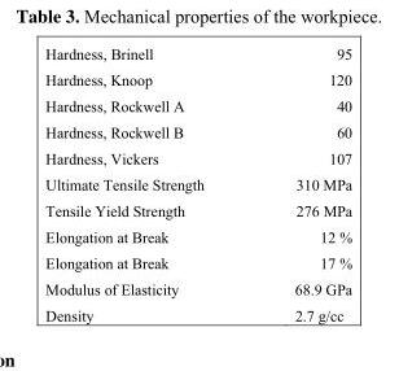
<table><tbody><tr><td>Hardness, Brinell</td><td>95</td></tr><tr><td>Hardness, Knoop</td><td>120</td></tr><tr><td>Hardness, Rockwell A</td><td>40</td></tr><tr><td>Hardness, Rockwell B</td><td>60</td></tr><tr><td>Hardness, Vickers</td><td>107</td></tr><tr><td>Ultimate Tensile Strength</td><td>310 MPa</td></tr><tr><td>Tensile Yield Strength</td><td>276 MPa</td></tr><tr><td>Elongation at Break</td><td>12 %</td></tr><tr><td>Elongation at Break</td><td>17 %</td></tr><tr><td>Modulus of Elasticity</td><td>68.9 GPa</td></tr><tr><td>Density</td><td>2.7 g/cc</td></tr></tbody></table>